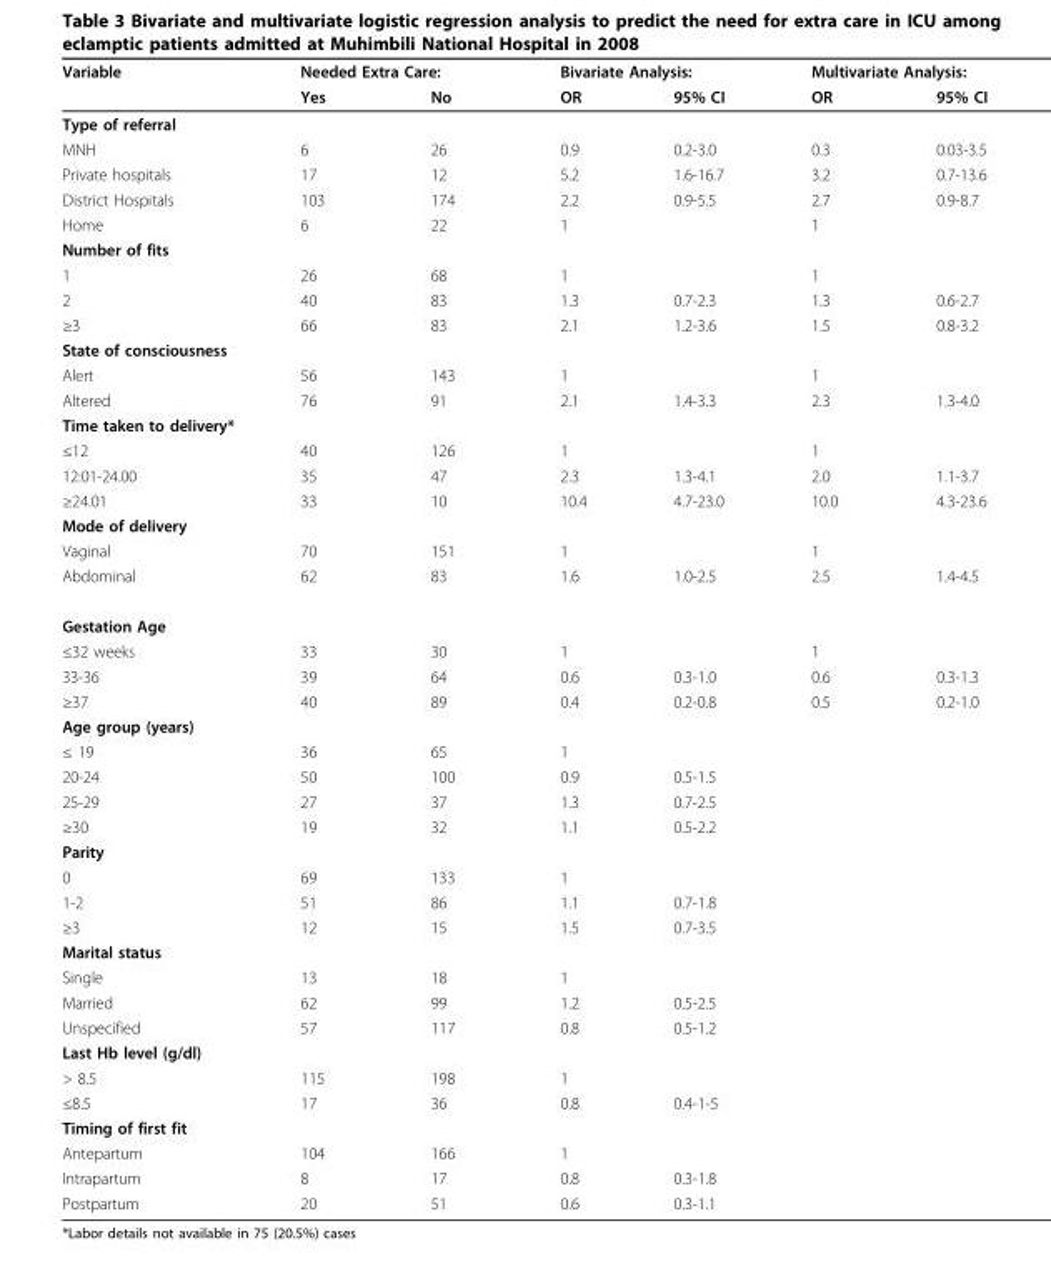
<table><thead><tr><td rowspan="2">Variable</td><td colspan="2">Needed Extra Care:</td><td colspan="2">Bivariate Analysis:</td><td colspan="2">Multivariate Analysis:</td></tr><tr><td>Yes</td><td>No</td><td>OR</td><td>95% CI</td><td>OR</td><td>95% CI</td></tr></thead><tbody><tr><td colspan="7">Type of referral</td></tr><tr><td>MNH</td><td>6</td><td>26</td><td>0.9</td><td>0.2-3.0</td><td>0.3</td><td>0.03-3.5</td></tr><tr><td>Private hospitals</td><td>17</td><td>12</td><td>5.2</td><td>1.6-16.7</td><td>3.2</td><td>0.7-13.6</td></tr><tr><td>District Hospitals</td><td>103</td><td>174</td><td>2.2</td><td>0.9-5.5</td><td>2.7</td><td>0.9-8.7</td></tr><tr><td>Home</td><td>6</td><td>22</td><td>1</td><td></td><td>1</td><td></td></tr><tr><td colspan="7">Number of fits</td></tr><tr><td>1</td><td>26</td><td>68</td><td>1</td><td></td><td>1</td><td></td></tr><tr><td>2</td><td>40</td><td>83</td><td>1.3</td><td>0.7-2.3</td><td>1.3</td><td>0.6-2.7</td></tr><tr><td>≥3</td><td>66</td><td>83</td><td>2.1</td><td>1.2-3.6</td><td>1.5</td><td>0.8-3.2</td></tr><tr><td colspan="7">State of consciousness</td></tr><tr><td>Alert</td><td>56</td><td>143</td><td>1</td><td></td><td>1</td><td></td></tr><tr><td>Altered</td><td>76</td><td>91</td><td>2.1</td><td>1.4-3.3</td><td>2.3</td><td>1.3-4.0</td></tr><tr><td colspan="7">Time taken to delivery*</td></tr><tr><td>≤12</td><td>40</td><td>126</td><td>1</td><td></td><td>1</td><td></td></tr><tr><td>12:01-24.00</td><td>35</td><td>47</td><td>2.3</td><td>1.3-4.1</td><td>2.0</td><td>1.1-3.7</td></tr><tr><td>≥24.01</td><td>33</td><td>10</td><td>10.4</td><td>4.7-23.0</td><td>10.0</td><td>4.3-23.6</td></tr><tr><td colspan="7">Mode of delivery</td></tr><tr><td>Vaginal</td><td>70</td><td>151</td><td>1</td><td></td><td>1</td><td></td></tr><tr><td>Abdominal</td><td>62</td><td>83</td><td>1.6</td><td>1.0-2.5</td><td>2.5</td><td>1.4-4.5</td></tr><tr><td colspan="7">Gestation Age</td></tr><tr><td>≤32 weeks</td><td>33</td><td>30</td><td>1</td><td></td><td>1</td><td></td></tr><tr><td>33-36</td><td>39</td><td>64</td><td>0.6</td><td>0.3-1.0</td><td>0.6</td><td>0.3-1.3</td></tr><tr><td>≥37</td><td>40</td><td>89</td><td>0.4</td><td>0.2-0.8</td><td>0.5</td><td>0.2-1.0</td></tr><tr><td colspan="7">Age group (years)</td></tr><tr><td>≤ 19</td><td>36</td><td>65</td><td>1</td><td></td><td></td><td></td></tr><tr><td>20-24</td><td>50</td><td>100</td><td>0.9</td><td>0.5-1.5</td><td></td><td></td></tr><tr><td>25-29</td><td>27</td><td>37</td><td>1.3</td><td>0.7-2.5</td><td></td><td></td></tr><tr><td>≥30</td><td>19</td><td>32</td><td>1.1</td><td>0.5-2.2</td><td></td><td></td></tr><tr><td colspan="7">Parity</td></tr><tr><td>0</td><td>69</td><td>133</td><td>1</td><td></td><td></td><td></td></tr><tr><td>1-2</td><td>51</td><td>86</td><td>1.1</td><td>0.7-1.8</td><td></td><td></td></tr><tr><td>≥3</td><td>12</td><td>15</td><td>1.5</td><td>0.7-3.5</td><td></td><td></td></tr><tr><td colspan="7">Marital status</td></tr><tr><td>Single</td><td>13</td><td>18</td><td>1</td><td></td><td></td><td></td></tr><tr><td>Married</td><td>62</td><td>99</td><td>1.2</td><td>0.5-2.5</td><td></td><td></td></tr><tr><td>Unspecified</td><td>57</td><td>117</td><td>0.8</td><td>0.5-1.2</td><td></td><td></td></tr><tr><td colspan="7">Last Hb level (g/dl)</td></tr><tr><td>&gt; 8.5</td><td>115</td><td>198</td><td>1</td><td></td><td></td><td></td></tr><tr><td>≤8.5</td><td>17</td><td>36</td><td>0.8</td><td>0.4-1-5</td><td></td><td></td></tr><tr><td colspan="7">Timing of first fit</td></tr><tr><td>Antepartum</td><td>104</td><td>166</td><td>1</td><td></td><td></td><td></td></tr><tr><td>Intrapartum</td><td>8</td><td>17</td><td>0.8</td><td>0.3-1.8</td><td></td><td></td></tr><tr><td>Postpartum</td><td>20</td><td>51</td><td>0.6</td><td>0.3-1.1</td><td></td><td></td></tr></tbody></table>